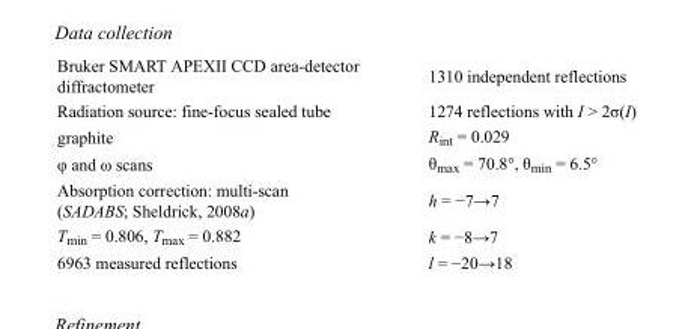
<table><tbody><tr><td>Bruker SMART APEXII CCD area-detector diffractometer</td><td>1310 independent reflections</td></tr><tr><td>Radiation source: fine-focus sealed tube</td><td>1274 reflections with I &gt; 2σ(I)</td></tr><tr><td>graphite</td><td>R<sub>int</sub> = 0.029</td></tr><tr><td>φ and ω scans</td><td>θ<sub>max</sub> = 70.8°, θ<sub>min</sub> = 6.5°</td></tr><tr><td>Absorption correction: multi-scan (SADABS; Sheldrick, 2008a)</td><td>h = −7→7</td></tr><tr><td>T<sub>min</sub> = 0.806, T<sub>max</sub> = 0.882</td><td>k = −8→7</td></tr><tr><td>6963 measured reflections</td><td>l = −20→18</td></tr></tbody></table>